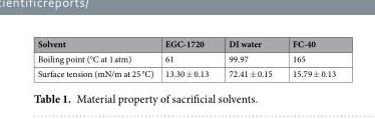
<table><thead><tr><td>Solvent</td><td>EGC-1720</td><td>DI water</td><td>FC-40</td></tr></thead><tbody><tr><td>Boiling point (°C at 1 atm)</td><td>61</td><td>99.97</td><td>165</td></tr><tr><td>Surface tension (mN/m at 25 °C)</td><td>13.30 ± 0.13</td><td>72.41 ± 0.15</td><td>15.79 ± 0.13</td></tr></tbody></table>